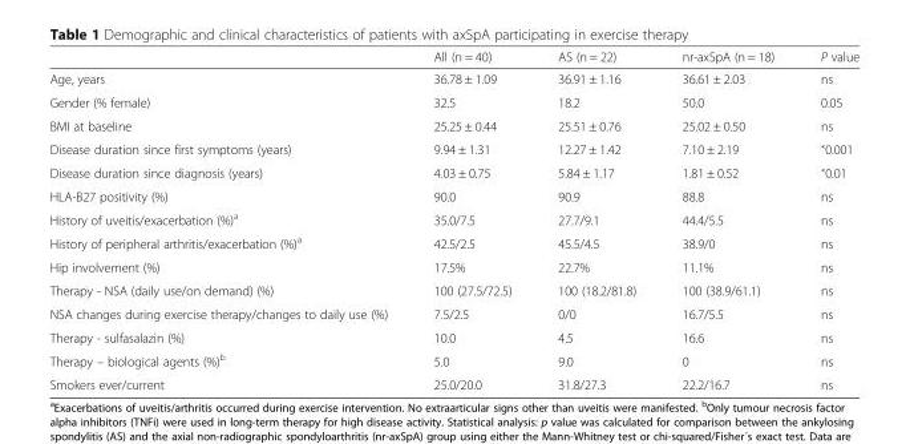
<table><thead><tr><td></td><td>All (n = 40)</td><td>AS (n = 22)</td><td>nr-axSpA (n = 18)</td><td>P value</td></tr></thead><tbody><tr><td>Age, years</td><td>36.78 ± 1.09</td><td>36.91 ± 1.16</td><td>36.61 ± 2.03</td><td>ns</td></tr><tr><td>Gender (% female)</td><td>32.5</td><td>18.2</td><td>50.0</td><td>0.05</td></tr><tr><td>BMI at baseline</td><td>25.25 ± 0.44</td><td>25.51 ± 0.76</td><td>25.02 ± 0.50</td><td>ns</td></tr><tr><td>Disease duration since first symptoms (years)</td><td>9.94 ± 1.31</td><td>12.27 ± 1.42</td><td>7.10 ± 2.19</td><td>˂0.001</td></tr><tr><td>Disease duration since diagnosis (years)</td><td>4.03 ± 0.75</td><td>5.84 ± 1.17</td><td>1.81 ± 0.52</td><td>˂0.01</td></tr><tr><td>HLA-B27 positivity (%)</td><td>90.0</td><td>90.9</td><td>88.8</td><td>ns</td></tr><tr><td>History of uveitis/exacerbation (%)<sup>a</sup></td><td>35.0/7.5</td><td>27.7/9.1</td><td>44.4/5.5</td><td>ns</td></tr><tr><td>History of peripheral arthritis/exacerbation (%)<sup>a</sup></td><td>42.5/2.5</td><td>45.5/4.5</td><td>38.9/0</td><td>ns</td></tr><tr><td>Hip involvement (%)</td><td>17.5%</td><td>22.7%</td><td>11.1%</td><td>ns</td></tr><tr><td>Therapy - NSA (daily use/on demand) (%)</td><td>100 (27.5/72.5)</td><td>100 (18.2/81.8)</td><td>100 (38.9/61.1)</td><td>ns</td></tr><tr><td>NSA changes during exercise therapy/changes to daily use (%)</td><td>7.5/2.5</td><td>0/0</td><td>16.7/5.5</td><td>ns</td></tr><tr><td>Therapy - sulfasalazin (%)</td><td>10.0</td><td>4.5</td><td>16.6</td><td>ns</td></tr><tr><td>Therapy – biological agents (%)<sup>b</sup></td><td>5.0</td><td>9.0</td><td>0</td><td>ns</td></tr><tr><td>Smokers ever/current</td><td>25.0/20.0</td><td>31.8/27.3</td><td>22.2/16.7</td><td>ns</td></tr></tbody></table>